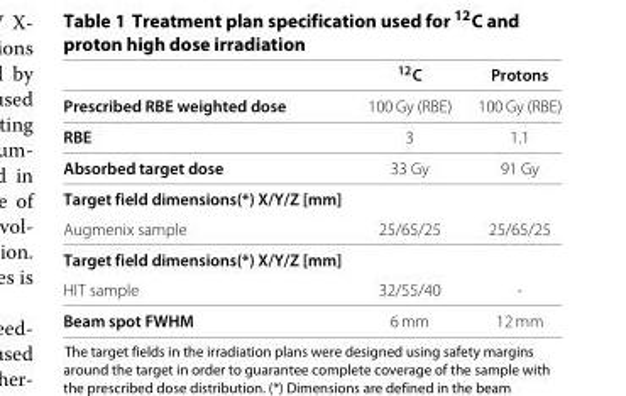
<table><thead><tr><td></td><td><sup>12</sup>C</td><td>Protons</td></tr></thead><tbody><tr><td>Prescribed RBE weighted dose</td><td>100 Gy (RBE)</td><td>100 Gy (RBE)</td></tr><tr><td>RBE</td><td>3</td><td>1.1</td></tr><tr><td>Absorbed target dose</td><td>33 Gy</td><td>91 Gy</td></tr><tr><td colspan="3">Target field dimensions(*) X/Y/Z [mm]</td></tr><tr><td>Augmenix sample</td><td>25/65/25</td><td>25/65/25</td></tr><tr><td colspan="3">Target field dimensions(*) X/Y/Z [mm]</td></tr><tr><td>HIT sample</td><td>32/55/40</td><td>-</td></tr><tr><td>Beam spot FWHM</td><td>6 mm</td><td>12 mm</td></tr></tbody></table>